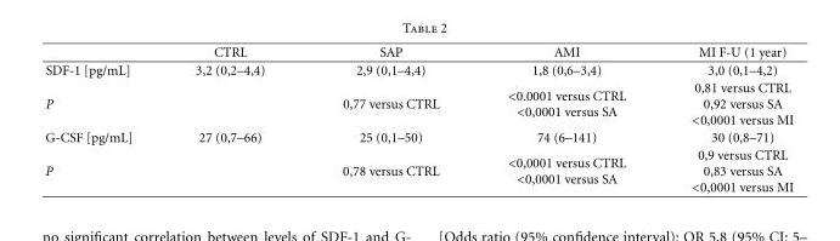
<table><thead><tr><td></td><td>CTRL</td><td>SAP</td><td>AMI</td><td>MI F-U (1 year)</td></tr></thead><tbody><tr><td>SDF-1 [pg/mL]</td><td>3,2 (0,2–4,4)</td><td>2,9 (0,1–4,4)</td><td>1,8 (0,6–3,4)</td><td>3,0 (0,1–4,2)</td></tr><tr><td>P</td><td></td><td>0,77 versus CTRL</td><td>&lt;0.0001 versus CTRL &lt;0,0001 versus SA</td><td>0,81 versus CTRL 0,92 versus SA &lt;0,0001 versus MI</td></tr><tr><td>G-CSF [pg/mL]</td><td>27 (0,7–66)</td><td>25 (0,1–50)</td><td>74 (6–141)</td><td>30 (0,8–71)</td></tr><tr><td>P</td><td></td><td>0,78 versus CTRL</td><td>&lt;0,0001 versus CTRL &lt;0,0001 versus SA</td><td>0,9 versus CTRL 0,83 versus SA &lt;0,0001 versus MI</td></tr></tbody></table>